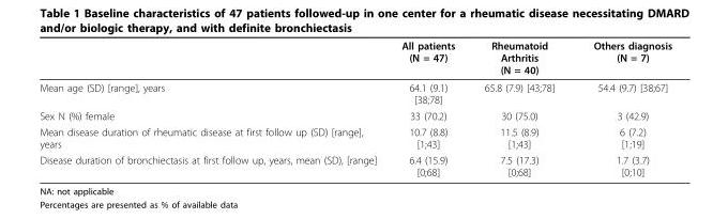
<table><thead><tr><td></td><td>All patients (N = 47)</td><td>Rheumatoid Arthritis (N = 40)</td><td>Others diagnosis (N = 7)</td></tr></thead><tbody><tr><td>Mean age (SD) [range], years</td><td>64.1 (9.1) [38;78]</td><td>65.8 (7.9) [43;78]</td><td>54.4 (9.7) [38;67]</td></tr><tr><td>Sex N (%) female</td><td>33 (70.2)</td><td>30 (75.0)</td><td>3 (42.9)</td></tr><tr><td>Mean disease duration of rheumatic disease at first follow up (SD) [range], years</td><td>10.7 (8.8) [1;43]</td><td>11.5 (8.9) [1;43]</td><td>6 (7.2) [1;19]</td></tr><tr><td>Disease duration of bronchiectasis at first follow up, years, mean (SD), [range]</td><td>6.4 (15.9) [0;68]</td><td>7.5 (17.3) [0;68]</td><td>1.7 (3.7) [0;10]</td></tr></tbody></table>